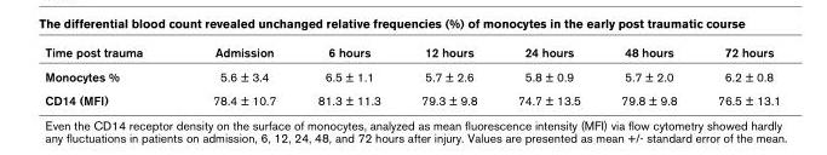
<table><thead><tr><td>Time post trauma</td><td>Admission</td><td>6 hours</td><td>12 hours</td><td>24 hours</td><td>48 hours</td><td>72 hours</td></tr></thead><tbody><tr><td>Monocytes %</td><td>5.6 ± 3.4</td><td>6.5 ± 1.1</td><td>5.7 ± 2.6</td><td>5.8 ± 0.9</td><td>5.7 ± 2.0</td><td>6.2 ± 0.8</td></tr><tr><td>CD14 (MFI)</td><td>78.4 ± 10.7</td><td>81.3 ± 11.3</td><td>79.3 ± 9.8</td><td>74.7 ± 13.5</td><td>79.8 ± 9.8</td><td>76.5 ± 13.1</td></tr></tbody></table>